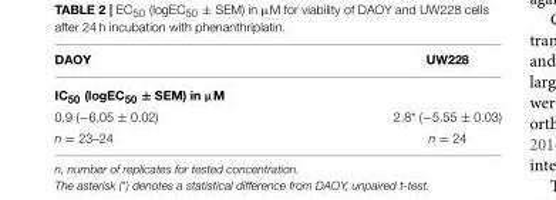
<table><thead><tr><td>DAOY</td><td>UW228</td></tr></thead><tbody><tr><td colspan="2">IC<sub>50</sub> (logEC<sub>50</sub> ± SEM) in µM</td></tr><tr><td>0.9 (−6.05 ± 0.02)</td><td>2.8* (−5.55 ± 0.03)</td></tr><tr><td>n = 23–24</td><td>n = 24</td></tr></tbody></table>